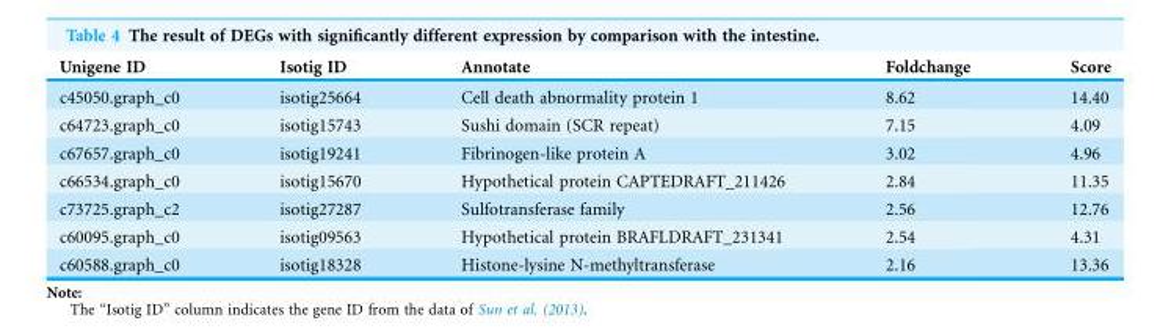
<table><thead><tr><td>Unigene ID</td><td>Isotig ID</td><td>Annotate</td><td>Foldchange</td><td>Score</td></tr></thead><tbody><tr><td>c45050.graph_c0</td><td>isotig25664</td><td>Cell death abnormality protein 1</td><td>8.62</td><td>14.40</td></tr><tr><td>c64723.graph_c0</td><td>isotig15743</td><td>Sushi domain (SCR repeat)</td><td>7.15</td><td>4.09</td></tr><tr><td>c67657.graph_c0</td><td>isotig19241</td><td>Fibrinogen-like protein A</td><td>3.02</td><td>4.96</td></tr><tr><td>c66534.graph_c0</td><td>isotig15670</td><td>Hypothetical protein CAPTEDRAFT_211426</td><td>2.84</td><td>11.35</td></tr><tr><td>c73725.graph_c2</td><td>isotig27287</td><td>Sulfotransferase family</td><td>2.56</td><td>12.76</td></tr><tr><td>c60095.graph_c0</td><td>isotig09563</td><td>Hypothetical protein BRAFLDRAFT_231341</td><td>2.54</td><td>4.31</td></tr><tr><td>c60588.graph_c0</td><td>isotig18328</td><td>Histone-lysine N-methyltransferase</td><td>2.16</td><td>13.36</td></tr></tbody></table>